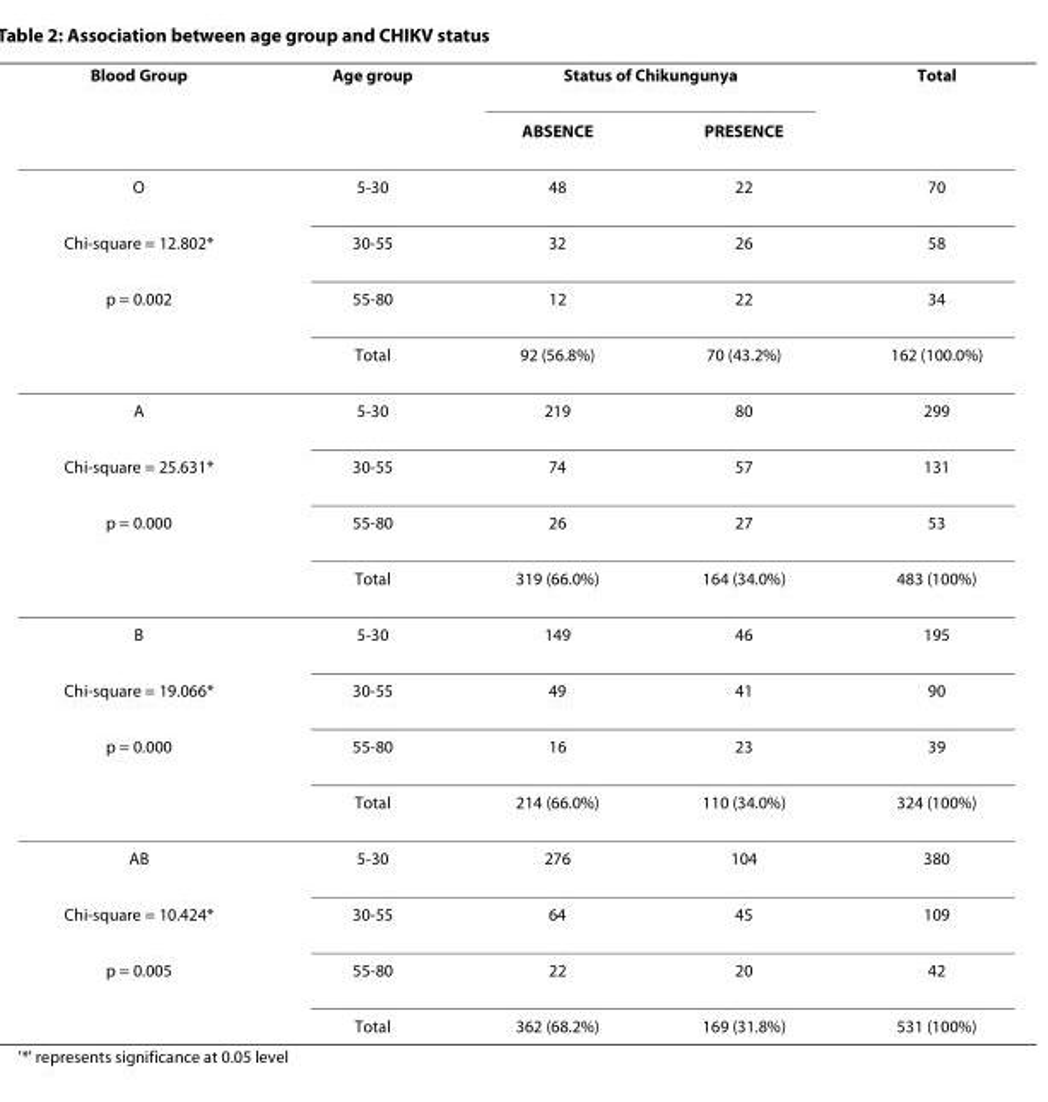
<table><thead><tr><td rowspan="2">Blood Group</td><td rowspan="2">Age group</td><td colspan="2">Status of Chikungunya</td><td rowspan="2">Total</td></tr><tr><td>ABSENCE</td><td>PRESENCE</td></tr></thead><tbody><tr><td>O</td><td>5-30</td><td>48</td><td>22</td><td>70</td></tr><tr><td>Chi-square = 12.802*</td><td>30-55</td><td>32</td><td>26</td><td>58</td></tr><tr><td rowspan="2">p = 0.002</td><td>55-80</td><td>12</td><td>22</td><td>34</td></tr><tr><td>Total</td><td>92 (56.8%)</td><td>70 (43.2%)</td><td>162 (100.0%)</td></tr><tr><td>A</td><td>5-30</td><td>219</td><td>80</td><td>299</td></tr><tr><td>Chi-square = 25.631*</td><td>30-55</td><td>74</td><td>57</td><td>131</td></tr><tr><td rowspan="2">p = 0.000</td><td>55-80</td><td>26</td><td>27</td><td>53</td></tr><tr><td>Total</td><td>319 (66.0%)</td><td>164 (34.0%)</td><td>483 (100%)</td></tr><tr><td>B</td><td>5-30</td><td>149</td><td>46</td><td>195</td></tr><tr><td>Chi-square = 19.066*</td><td>30-55</td><td>49</td><td>41</td><td>90</td></tr><tr><td rowspan="2">p = 0.000</td><td>55-80</td><td>16</td><td>23</td><td>39</td></tr><tr><td>Total</td><td>214 (66.0%)</td><td>110 (34.0%)</td><td>324 (100%)</td></tr><tr><td>AB</td><td>5-30</td><td>276</td><td>104</td><td>380</td></tr><tr><td>Chi-square = 10.424*</td><td>30-55</td><td>64</td><td>45</td><td>109</td></tr><tr><td rowspan="2">p = 0.005</td><td>55-80</td><td>22</td><td>20</td><td>42</td></tr><tr><td>Total</td><td>362 (68.2%)</td><td>169 (31.8%)</td><td>531 (100%)</td></tr></tbody></table>